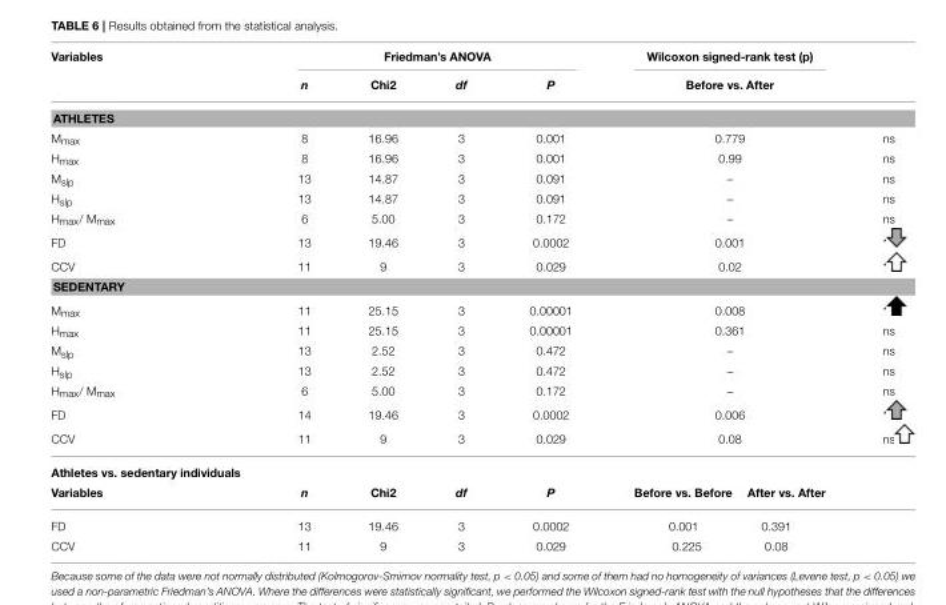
<table><thead><tr><td rowspan="2">Variables</td><td colspan="4">Friedman’s ANOVA</td><td rowspan="2" colspan="2">Wilcoxon signed-rank test (p) Before vs. After</td><td rowspan="2"></td></tr><tr><td>n</td><td>Chi2</td><td>df</td><td>P</td></tr></thead><tbody><tr><td colspan="8">ATHLETES</td></tr><tr><td>M<sub>max</sub></td><td>8</td><td>16.96</td><td>3</td><td>0.001</td><td colspan="2">0.779</td><td>ns</td></tr><tr><td>H<sub>max</sub></td><td>8</td><td>16.96</td><td>3</td><td>0.001</td><td colspan="2">0.99</td><td>ns</td></tr><tr><td>M<sub>slp</sub></td><td>13</td><td>14.87</td><td>3</td><td>0.091</td><td colspan="2">–</td><td>ns</td></tr><tr><td>H<sub>slp</sub></td><td>13</td><td>14.87</td><td>3</td><td>0.091</td><td colspan="2">–</td><td>ns</td></tr><tr><td>H<sub>max</sub>/ M<sub>max</sub></td><td>6</td><td>5.00</td><td>3</td><td>0.172</td><td colspan="2">–</td><td>ns</td></tr><tr><td>FD</td><td>13</td><td>19.46</td><td>3</td><td>0.0002</td><td colspan="2">0.001</td><td>*</td></tr><tr><td>CCV</td><td>11</td><td>9</td><td>3</td><td>0.029</td><td colspan="2">0.02</td><td>*</td></tr><tr><td colspan="8">SEDENTARY</td></tr><tr><td>M<sub>max</sub></td><td>11</td><td>25.15</td><td>3</td><td>0.00001</td><td colspan="2">0.008</td><td>*</td></tr><tr><td>H<sub>max</sub></td><td>11</td><td>25.15</td><td>3</td><td>0.00001</td><td colspan="2">0.361</td><td>ns</td></tr><tr><td>M<sub>slp</sub></td><td>13</td><td>2.52</td><td>3</td><td>0.472</td><td colspan="2">–</td><td>ns</td></tr><tr><td>H<sub>slp</sub></td><td>13</td><td>2.52</td><td>3</td><td>0.472</td><td colspan="2">–</td><td>ns</td></tr><tr><td>H<sub>max</sub>/ M<sub>max</sub></td><td>6</td><td>5.00</td><td>3</td><td>0.172</td><td colspan="2">–</td><td>ns</td></tr><tr><td>FD</td><td>14</td><td>19.46</td><td>3</td><td>0.0002</td><td colspan="2">0.006</td><td>*</td></tr><tr><td>CCV</td><td>11</td><td>9</td><td>3</td><td>0.029</td><td colspan="2">0.08</td><td>ns</td></tr><tr><td colspan="8">Athletes vs. sedentary individuals</td></tr><tr><td>Variables</td><td>n</td><td>Chi2</td><td>df</td><td>P</td><td>Before vs. Before</td><td>After vs. After</td><td></td></tr><tr><td>FD</td><td>13</td><td>19.46</td><td>3</td><td>0.0002</td><td>0.001</td><td>0.391</td><td></td></tr><tr><td>CCV</td><td>11</td><td>9</td><td>3</td><td>0.029</td><td>0.225</td><td>0.08</td><td></td></tr></tbody></table>